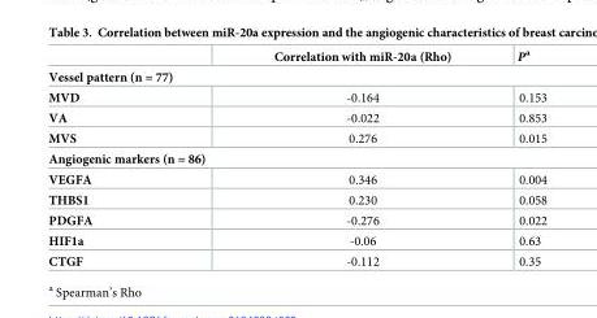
<table><thead><tr><td></td><td>Correlation with miR-20a (Rho)</td><td>P<sup>a</sup></td></tr></thead><tbody><tr><td colspan="3">Vessel pattern (n = 77)</td></tr><tr><td>MVD</td><td>-0.164</td><td>0.153</td></tr><tr><td>VA</td><td>-0.022</td><td>0.853</td></tr><tr><td>MVS</td><td>0.276</td><td>0.015</td></tr><tr><td colspan="3">Angiogenic markers (n = 86)</td></tr><tr><td>VEGFA</td><td>0.346</td><td>0.004</td></tr><tr><td>THBS1</td><td>0.230</td><td>0.058</td></tr><tr><td>PDGFA</td><td>-0.276</td><td>0.022</td></tr><tr><td>HIF1a</td><td>-0.06</td><td>0.63</td></tr><tr><td>CTGF</td><td>-0.112</td><td>0.35</td></tr></tbody></table>